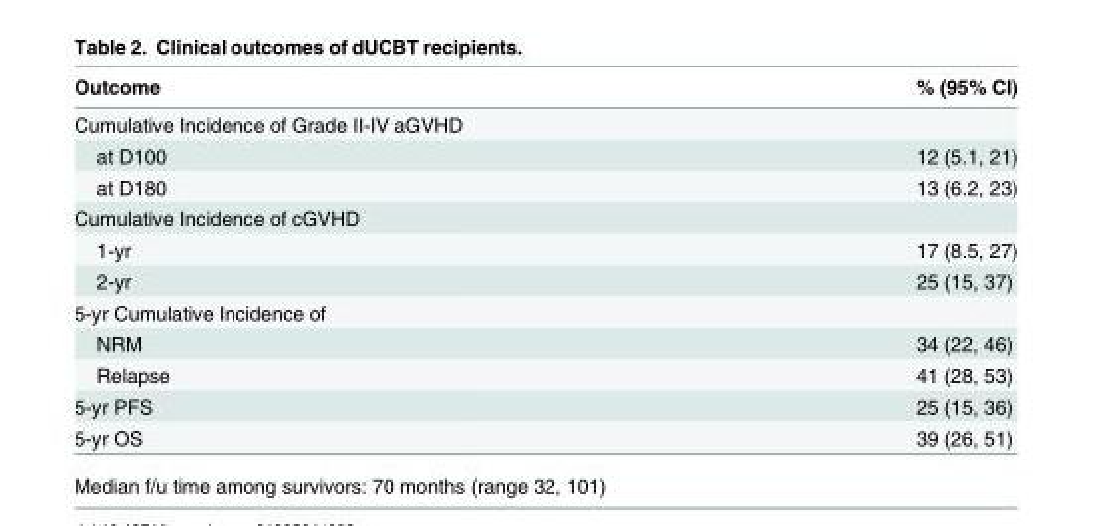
<table><thead><tr><td>Outcome</td><td>% (95% CI)</td></tr></thead><tbody><tr><td colspan="2">Cumulative Incidence of Grade II-IV aGVHD</td></tr><tr><td>at D100</td><td>12 (5.1, 21)</td></tr><tr><td>at D180</td><td>13 (6.2, 23)</td></tr><tr><td colspan="2">Cumulative Incidence of cGVHD</td></tr><tr><td>1-yr</td><td>17 (8.5, 27)</td></tr><tr><td>2-yr</td><td>25 (15, 37)</td></tr><tr><td colspan="2">5-yr Cumulative Incidence of</td></tr><tr><td>NRM</td><td>34 (22, 46)</td></tr><tr><td>Relapse</td><td>41 (28, 53)</td></tr><tr><td>5-yr PFS</td><td>25 (15, 36)</td></tr><tr><td>5-yr OS</td><td>39 (26, 51)</td></tr></tbody></table>